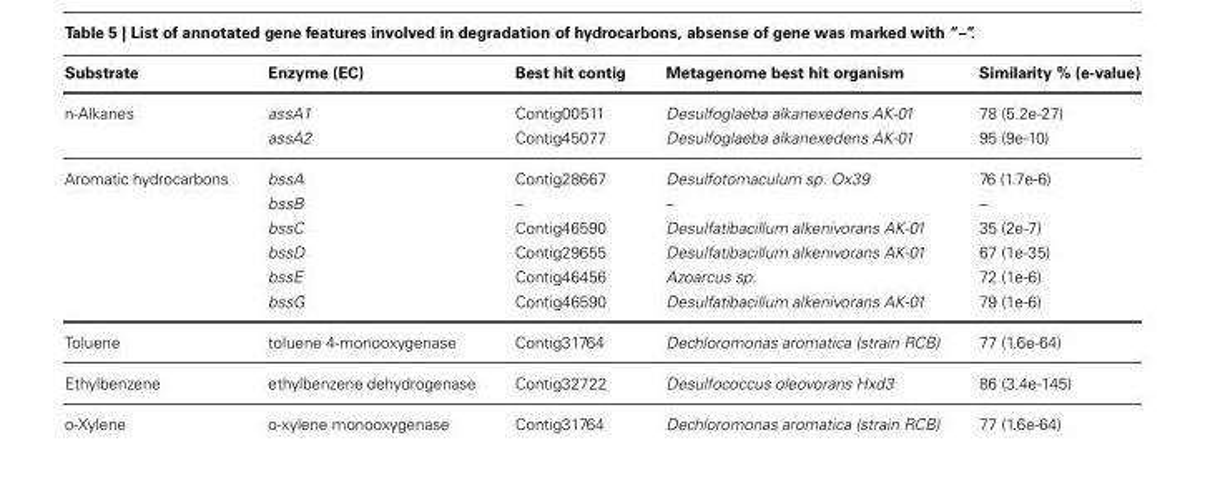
<table><thead><tr><td>Substrate</td><td>Enzyme (EC)</td><td>Best hit contig</td><td>Metagenome best hit organism</td><td>Similarity % (e-value)</td></tr></thead><tbody><tr><td rowspan="2">n-Alkanes</td><td>assA1</td><td>Contig00511</td><td>Desulfoglaeba alkanexedens AK-01</td><td>78 (5.2e-27)</td></tr><tr><td>assA2</td><td>Contig45077</td><td>Desulfoglaeba alkanexedens AK-01</td><td>95 (9e-10)</td></tr><tr><td rowspan="6">Aromatic hydrocarbons</td><td>bssA</td><td>Contig28667</td><td>Desulfotomaculum sp. Ox39</td><td>76 (1.7e-6)</td></tr><tr><td>bssB</td><td>–</td><td>–</td><td>–</td></tr><tr><td>bssC</td><td>Contig46590</td><td>Desulfatibacillum alkenivorans AK-01</td><td>35 (2e-7)</td></tr><tr><td>bssD</td><td>Contig29655</td><td>Desulfatibacillum alkenivorans AK-01</td><td>67 (1e-35)</td></tr><tr><td>bssE</td><td>Contig46456</td><td>Azoarcus sp.</td><td>72 (1e-6)</td></tr><tr><td>bssG</td><td>Contig46590</td><td>Desulfatibacillum alkenivorans AK-01</td><td>79 (1e-6)</td></tr><tr><td>Toluene</td><td>toluene 4-monooxygenase</td><td>Contig31764</td><td>Dechloromonas aromatica (strain RCB)</td><td>77 (1.6e-64)</td></tr><tr><td>Ethylbenzene</td><td>ethylbenzene dehydrogenase</td><td>Contig32722</td><td>Desulfococcus oleovorans Hxd3</td><td>86 (3.4e-145)</td></tr><tr><td>o-Xylene</td><td>o-xylene monooxygenase</td><td>Contig31764</td><td>Dechloromonas aromatica (strain RCB)</td><td>77 (1.6e-64)</td></tr></tbody></table>